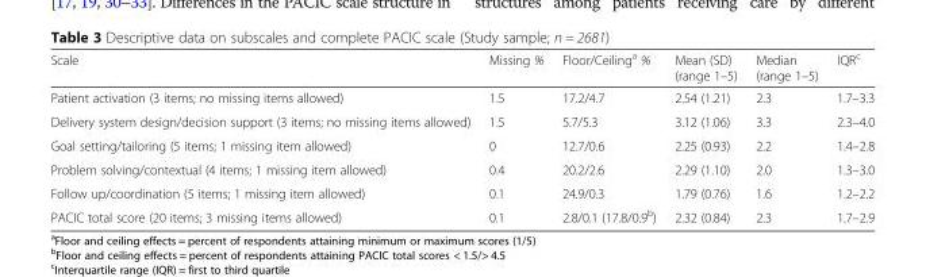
<table><thead><tr><td>Scale</td><td>Missing %</td><td>Floor/Ceiling<sup>a</sup> %</td><td>Mean (SD) (range 1–5)</td><td>Median (range 1–5)</td><td>IQR<sup>c</sup></td></tr></thead><tbody><tr><td>Patient activation (3 items; no missing items allowed)</td><td>1.5</td><td>17.2/4.7</td><td>2.54 (1.21)</td><td>2.3</td><td>1.7–3.3</td></tr><tr><td>Delivery system design/decision support (3 items; no missing items allowed)</td><td>1.5</td><td>5.7/5.3</td><td>3.12 (1.06)</td><td>3.3</td><td>2.3–4.0</td></tr><tr><td>Goal setting/tailoring (5 items; 1 missing item allowed)</td><td>0</td><td>12.7/0.6</td><td>2.25 (0.93)</td><td>2.2</td><td>1.4–2.8</td></tr><tr><td>Problem solving/contextual (4 items; 1 missing item allowed)</td><td>0.4</td><td>20.2/2.6</td><td>2.29 (1.10)</td><td>2.0</td><td>1.3–3.0</td></tr><tr><td>Follow up/coordination (5 items; 1 missing item allowed)</td><td>0.1</td><td>24.9/0.3</td><td>1.79 (0.76)</td><td>1.6</td><td>1.2–2.2</td></tr><tr><td>PACIC total score (20 items; 3 missing items allowed)</td><td>0.1</td><td>2.8/0.1 (17.8/0.9<sup>b</sup>)</td><td>2.32 (0.84)</td><td>2.3</td><td>1.7–2.9</td></tr></tbody></table>